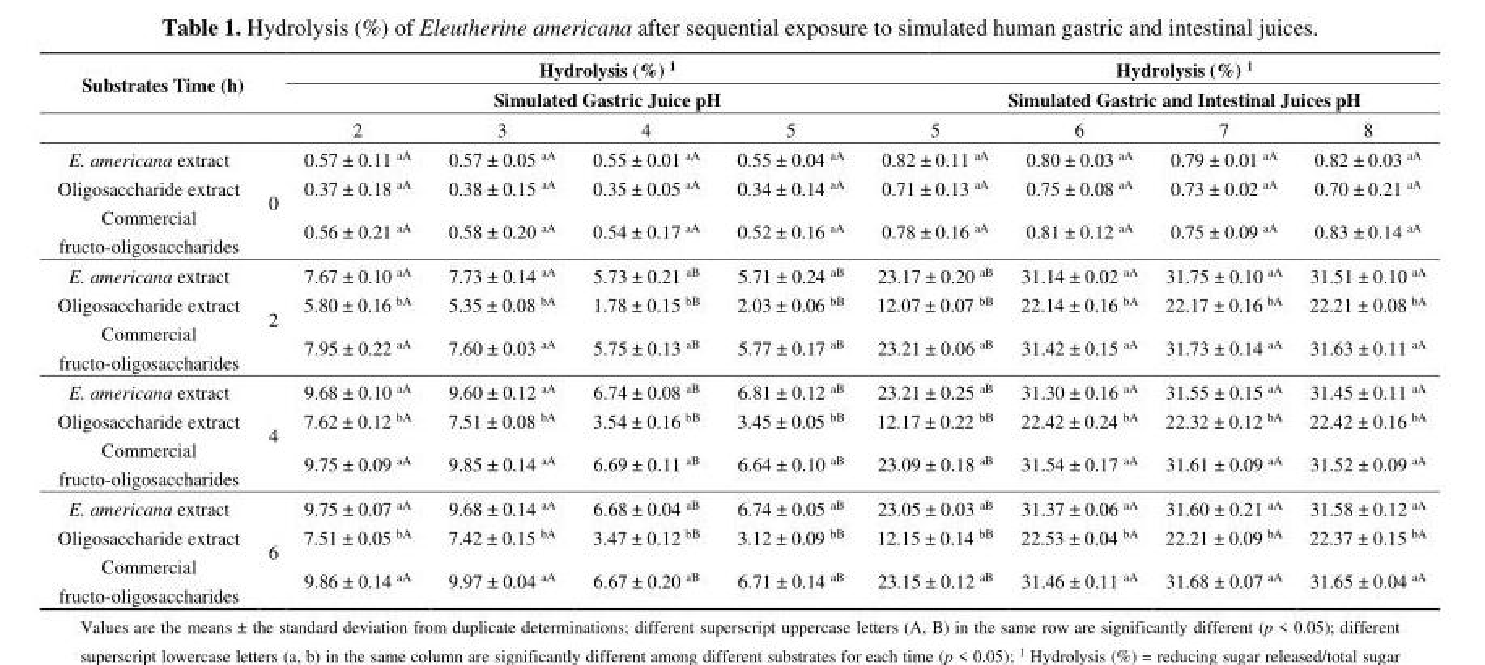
<table><thead><tr><td rowspan="2" colspan="2">Substrates Time (h)</td><td rowspan="2" colspan="4">Hydrolysis (%) <sup>1</sup> Simulated Gastric Juice pH</td><td rowspan="2" colspan="4">Hydrolysis (%) <sup>1</sup> Simulated Gastric and Intestinal Juices pH</td></tr><tr></tr><tr><td></td><td></td><td>2</td><td>3</td><td>4</td><td>5</td><td>5</td><td>6</td><td>7</td><td>8</td></tr></thead><tbody><tr><td>E. americana extract</td><td rowspan="3">0</td><td>0.57 ± 0.11 <sup>aA</sup></td><td>0.57 ± 0.05 <sup>aA</sup></td><td>0.55 ± 0.01 <sup>aA</sup></td><td>0.55 ± 0.04 <sup>aA</sup></td><td>0.82 ± 0.11 <sup>aA</sup></td><td>0.80 ± 0.03 <sup>aA</sup></td><td>0.79 ± 0.01 <sup>aA</sup></td><td>0.82 ± 0.03 <sup>aA</sup></td></tr><tr><td>Oligosaccharide extract</td><td>0.37 ± 0.18 <sup>aA</sup></td><td>0.38 ± 0.15 <sup>aA</sup></td><td>0.35 ± 0.05 <sup>aA</sup></td><td>0.34 ± 0.14 <sup>aA</sup></td><td>0.71 ± 0.13 <sup>aA</sup></td><td>0.75 ± 0.08 <sup>aA</sup></td><td>0.73 ± 0.02 <sup>aA</sup></td><td>0.70 ± 0.21 <sup>aA</sup></td></tr><tr><td>Commercial fructo-oligosaccharides</td><td>0.56 ± 0.21 <sup>aA</sup></td><td>0.58 ± 0.20 <sup>aA</sup></td><td>0.54 ± 0.17 <sup>aA</sup></td><td>0.52 ± 0.16 <sup>aA</sup></td><td>0.78 ± 0.16 <sup>aA</sup></td><td>0.81 ± 0.12 <sup>aA</sup></td><td>0.75 ± 0.09 <sup>aA</sup></td><td>0.83 ± 0.14 <sup>aA</sup></td></tr><tr><td>E. americana extract</td><td rowspan="3">2</td><td>7.67 ± 0.10 <sup>aA</sup></td><td>7.73 ± 0.14 <sup>aA</sup></td><td>5.73 ± 0.21 <sup>aB</sup></td><td>5.71 ± 0.24 <sup>aB</sup></td><td>23.17 ± 0.20 <sup>aB</sup></td><td>31.14 ± 0.02 <sup>aA</sup></td><td>31.75 ± 0.10 <sup>aA</sup></td><td>31.51 ± 0.10 <sup>aA</sup></td></tr><tr><td>Oligosaccharide extract</td><td>5.80 ± 0.16 <sup>bA</sup></td><td>5.35 ± 0.08 <sup>bA</sup></td><td>1.78 ± 0.15 <sup>bB</sup></td><td>2.03 ± 0.06 <sup>bB</sup></td><td>12.07 ± 0.07 <sup>bB</sup></td><td>22.14 ± 0.16 <sup>bA</sup></td><td>22.17 ± 0.16 <sup>bA</sup></td><td>22.21 ± 0.08 <sup>bA</sup></td></tr><tr><td>Commercial fructo-oligosaccharides</td><td>7.95 ± 0.22 <sup>aA</sup></td><td>7.60 ± 0.03 <sup>aA</sup></td><td>5.75 ± 0.13 <sup>aB</sup></td><td>5.77 ± 0.17 <sup>aB</sup></td><td>23.21 ± 0.06 <sup>aB</sup></td><td>31.42 ± 0.15 <sup>aA</sup></td><td>31.73 ± 0.14 <sup>aA</sup></td><td>31.63 ± 0.11 <sup>aA</sup></td></tr><tr><td>E. americana extract</td><td rowspan="3">4</td><td>9.68 ± 0.10 <sup>aA</sup></td><td>9.60 ± 0.12 <sup>aA</sup></td><td>6.74 ± 0.08 <sup>aB</sup></td><td>6.81 ± 0.12 <sup>aB</sup></td><td>23.21 ± 0.25 <sup>aB</sup></td><td>31.30 ± 0.16 <sup>aA</sup></td><td>31.55 ± 0.15 <sup>aA</sup></td><td>31.45 ± 0.11 <sup>aA</sup></td></tr><tr><td>Oligosaccharide extract</td><td>7.62 ± 0.12 <sup>bA</sup></td><td>7.51 ± 0.08 <sup>bA</sup></td><td>3.54 ± 0.16 <sup>bB</sup></td><td>3.45 ± 0.05 <sup>bB</sup></td><td>12.17 ± 0.22 <sup>bB</sup></td><td>22.42 ± 0.24 <sup>bA</sup></td><td>22.32 ± 0.12 <sup>bA</sup></td><td>22.42 ± 0.16 <sup>bA</sup></td></tr><tr><td>Commercial fructo-oligosaccharides</td><td>9.75 ± 0.09 <sup>aA</sup></td><td>9.85 ± 0.14 <sup>aA</sup></td><td>6.69 ± 0.11 <sup>aB</sup></td><td>6.64 ± 0.10 <sup>aB</sup></td><td>23.09 ± 0.18 <sup>aB</sup></td><td>31.54 ± 0.17 <sup>aA</sup></td><td>31.61 ± 0.09 <sup>aA</sup></td><td>31.52 ± 0.09 <sup>aA</sup></td></tr><tr><td>E. americana extract</td><td rowspan="3">6</td><td>9.75 ± 0.07 <sup>aA</sup></td><td>9.68 ± 0.14 <sup>aA</sup></td><td>6.68 ± 0.04 <sup>aB</sup></td><td>6.74 ± 0.05 <sup>aB</sup></td><td>23.05 ± 0.03 <sup>aB</sup></td><td>31.37 ± 0.06 <sup>aA</sup></td><td>31.60 ± 0.21 <sup>aA</sup></td><td>31.58 ± 0.12 <sup>aA</sup></td></tr><tr><td>Oligosaccharide extract</td><td>7.51 ± 0.05 <sup>bA</sup></td><td>7.42 ± 0.15 <sup>bA</sup></td><td>3.47 ± 0.12 <sup>bB</sup></td><td>3.12 ± 0.09 <sup>bB</sup></td><td>12.15 ± 0.14 <sup>bB</sup></td><td>22.53 ± 0.04 <sup>bA</sup></td><td>22.21 ± 0.09 <sup>bA</sup></td><td>22.37 ± 0.15 <sup>bA</sup></td></tr><tr><td>Commercial fructo-oligosaccharides</td><td>9.86 ± 0.14 <sup>aA</sup></td><td>9.97 ± 0.04 <sup>aA</sup></td><td>6.67 ± 0.20 <sup>aB</sup></td><td>6.71 ± 0.14 <sup>aB</sup></td><td>23.15 ± 0.12 <sup>aB</sup></td><td>31.46 ± 0.11 <sup>aA</sup></td><td>31.68 ± 0.07 <sup>aA</sup></td><td>31.65 ± 0.04 <sup>aA</sup></td></tr></tbody></table>